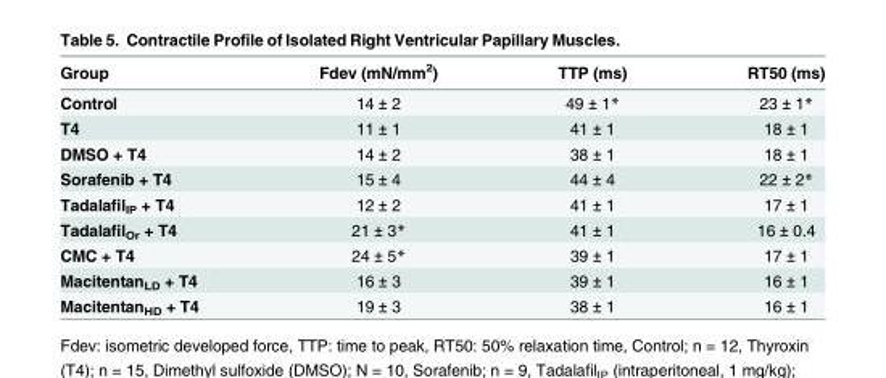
<table><thead><tr><td>Group</td><td>Fdev (mN/mm<sup>2</sup>)</td><td>TTP (ms)</td><td>RT50 (ms)</td></tr></thead><tbody><tr><td>Control</td><td>14 ± 2</td><td>49 ± 1*</td><td>23 ± 1*</td></tr><tr><td>T4</td><td>11 ± 1</td><td>41 ± 1</td><td>18 ± 1</td></tr><tr><td>DMSO + T4</td><td>14 ± 2</td><td>38 ± 1</td><td>18 ± 1</td></tr><tr><td>Sorafenib + T4</td><td>15 ± 4</td><td>44 ± 4</td><td>22 ± 2*</td></tr><tr><td>Tadalafil<sub>IP</sub> + T4</td><td>12 ± 2</td><td>41 ± 1</td><td>17 ± 1</td></tr><tr><td>Tadalafil<sub>Or</sub> + T4</td><td>21 ± 3*</td><td>41 ± 1</td><td>16 ± 0.4</td></tr><tr><td>CMC + T4</td><td>24 ± 5*</td><td>39 ± 1</td><td>17 ± 1</td></tr><tr><td>Macitentan<sub>LD</sub> + T4</td><td>16 ± 3</td><td>39 ± 1</td><td>16 ± 1</td></tr><tr><td>Macitentan<sub>HD</sub> + T4</td><td>19 ± 3</td><td>38 ± 1</td><td>16 ± 1</td></tr></tbody></table>